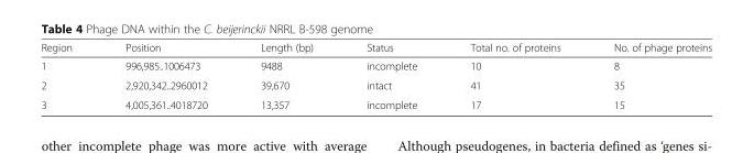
<table><thead><tr><td>Region</td><td>Position</td><td>Length (bp)</td><td>Status</td><td>Total no. of proteins</td><td>No. of phage proteins</td></tr></thead><tbody><tr><td>1</td><td>996,985..1006473</td><td>9488</td><td>incomplete</td><td>10</td><td>8</td></tr><tr><td>2</td><td>2,920,342..2960012</td><td>39,670</td><td>intact</td><td>41</td><td>35</td></tr><tr><td>3</td><td>4,005,361..4018720</td><td>13,357</td><td>incomplete</td><td>17</td><td>15</td></tr></tbody></table>